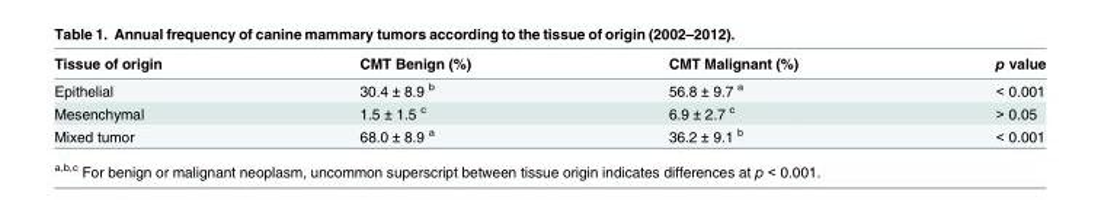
<table><thead><tr><td>Tissue of origin</td><td>CMT Benign (%)</td><td>CMT Malignant (%)</td><td>p value</td></tr></thead><tbody><tr><td>Epithelial</td><td>30.4 ± 8.9 <sup>b</sup></td><td>56.8 ± 9.7 <sup>a</sup></td><td>&lt; 0.001</td></tr><tr><td>Mesenchymal</td><td>1.5 ± 1.5 <sup>c</sup></td><td>6.9 ± 2.7 <sup>c</sup></td><td>&gt; 0.05</td></tr><tr><td>Mixed tumor</td><td>68.0 ± 8.9 <sup>a</sup></td><td>36.2 ± 9.1 <sup>b</sup></td><td>&lt; 0.001</td></tr></tbody></table>